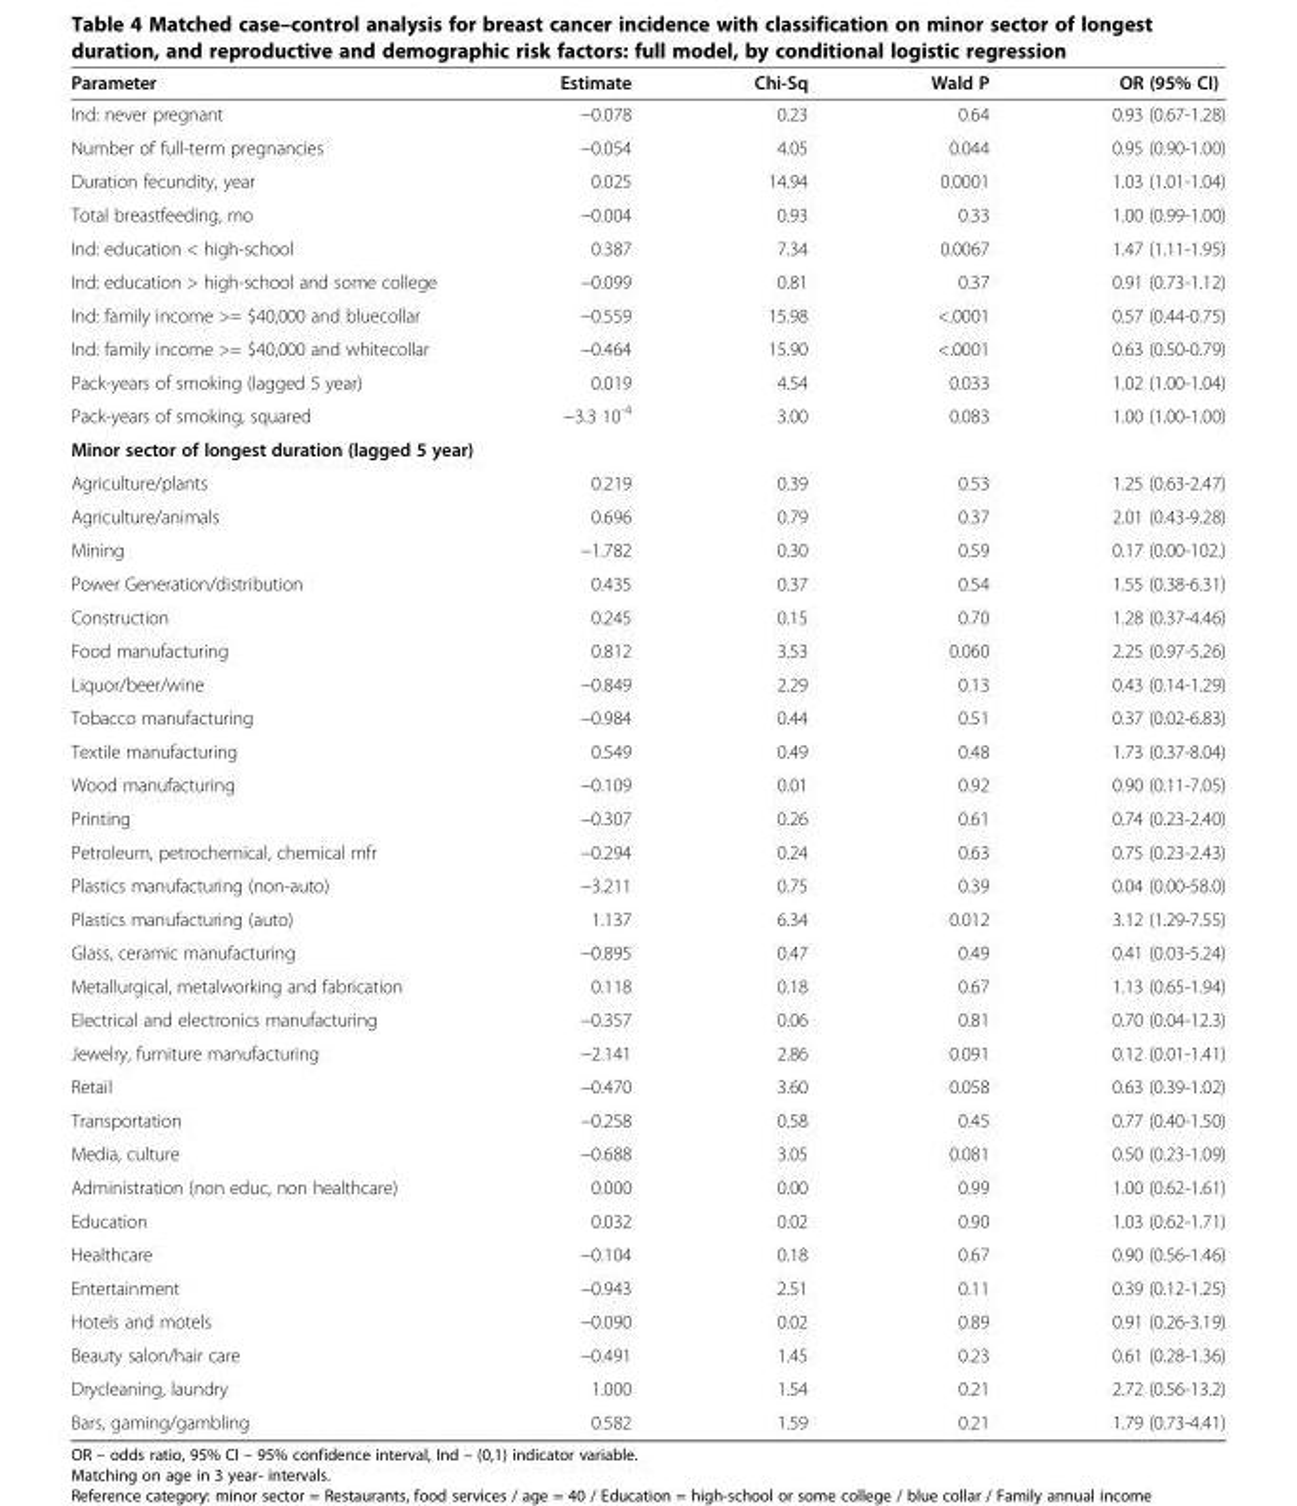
<table><thead><tr><td>Parameter</td><td>Estimate</td><td>Chi-Sq</td><td>Wald P</td><td>OR (95% CI)</td></tr></thead><tbody><tr><td>Ind: never pregnant</td><td>−0.078</td><td>0.23</td><td>0.64</td><td>0.93 (0.67-1.28)</td></tr><tr><td>Number of full-term pregnancies</td><td>−0.054</td><td>4.05</td><td>0.044</td><td>0.95 (0.90-1.00)</td></tr><tr><td>Duration fecundity, year</td><td>0.025</td><td>14.94</td><td>0.0001</td><td>1.03 (1.01-1.04)</td></tr><tr><td>Total breastfeeding, mo</td><td>−0.004</td><td>0.93</td><td>0.33</td><td>1.00 (0.99-1.00)</td></tr><tr><td>Ind: education &lt; high-school</td><td>0.387</td><td>7.34</td><td>0.0067</td><td>1.47 (1.11-1.95)</td></tr><tr><td>Ind: education &gt; high-school and some college</td><td>−0.099</td><td>0.81</td><td>0.37</td><td>0.91 (0.73-1.12)</td></tr><tr><td>Ind: family income &gt;= $40,000 and bluecollar</td><td>−0.559</td><td>15.98</td><td>&lt;.0001</td><td>0.57 (0.44-0.75)</td></tr><tr><td>Ind: family income &gt;= $40,000 and whitecollar</td><td>−0.464</td><td>15.90</td><td>&lt;.0001</td><td>0.63 (0.50-0.79)</td></tr><tr><td>Pack-years of smoking (lagged 5 year)</td><td>0.019</td><td>4.54</td><td>0.033</td><td>1.02 (1.00-1.04)</td></tr><tr><td>Pack-years of smoking, squared</td><td>−3.3 10<sup>-4</sup></td><td>3.00</td><td>0.083</td><td>1.00 (1.00-1.00)</td></tr><tr><td colspan="5">Minor sector of longest duration (lagged 5 year)</td></tr><tr><td>Agriculture/plants</td><td>0.219</td><td>0.39</td><td>0.53</td><td>1.25 (0.63-2.47)</td></tr><tr><td>Agriculture/animals</td><td>0.696</td><td>0.79</td><td>0.37</td><td>2.01 (0.43-9.28)</td></tr><tr><td>Mining</td><td>−1.782</td><td>0.30</td><td>0.59</td><td>0.17 (0.00-102.)</td></tr><tr><td>Power Generation/distribution</td><td>0.435</td><td>0.37</td><td>0.54</td><td>1.55 (0.38-6.31)</td></tr><tr><td>Construction</td><td>0.245</td><td>0.15</td><td>0.70</td><td>1.28 (0.37-4.46)</td></tr><tr><td>Food manufacturing</td><td>0.812</td><td>3.53</td><td>0.060</td><td>2.25 (0.97-5.26)</td></tr><tr><td>Liquor/beer/wine</td><td>−0.849</td><td>2.29</td><td>0.13</td><td>0.43 (0.14-1.29)</td></tr><tr><td>Tobacco manufacturing</td><td>−0.984</td><td>0.44</td><td>0.51</td><td>0.37 (0.02-6.83)</td></tr><tr><td>Textile manufacturing</td><td>0.549</td><td>0.49</td><td>0.48</td><td>1.73 (0.37-8.04)</td></tr><tr><td>Wood manufacturing</td><td>−0.109</td><td>0.01</td><td>0.92</td><td>0.90 (0.11-7.05)</td></tr><tr><td>Printing</td><td>−0.307</td><td>0.26</td><td>0.61</td><td>0.74 (0.23-2.40)</td></tr><tr><td>Petroleum, petrochemical, chemical mfr</td><td>−0.294</td><td>0.24</td><td>0.63</td><td>0.75 (0.23-2.43)</td></tr><tr><td>Plastics manufacturing (non-auto)</td><td>−3.211</td><td>0.75</td><td>0.39</td><td>0.04 (0.00-58.0)</td></tr><tr><td>Plastics manufacturing (auto)</td><td>1.137</td><td>6.34</td><td>0.012</td><td>3.12 (1.29-7.55)</td></tr><tr><td>Glass, ceramic manufacturing</td><td>−0.895</td><td>0.47</td><td>0.49</td><td>0.41 (0.03-5.24)</td></tr><tr><td>Metallurgical, metalworking and fabrication</td><td>0.118</td><td>0.18</td><td>0.67</td><td>1.13 (0.65-1.94)</td></tr><tr><td>Electrical and electronics manufacturing</td><td>−0.357</td><td>0.06</td><td>0.81</td><td>0.70 (0.04-12.3)</td></tr><tr><td>Jewelry, furniture manufacturing</td><td>−2.141</td><td>2.86</td><td>0.091</td><td>0.12 (0.01-1.41)</td></tr><tr><td>Retail</td><td>−0.470</td><td>3.60</td><td>0.058</td><td>0.63 (0.39-1.02)</td></tr><tr><td>Transportation</td><td>−0.258</td><td>0.58</td><td>0.45</td><td>0.77 (0.40-1.50)</td></tr><tr><td>Media, culture</td><td>−0.688</td><td>3.05</td><td>0.081</td><td>0.50 (0.23-1.09)</td></tr><tr><td>Administration (non educ, non healthcare)</td><td>0.000</td><td>0.00</td><td>0.99</td><td>1.00 (0.62-1.61)</td></tr><tr><td>Education</td><td>0.032</td><td>0.02</td><td>0.90</td><td>1.03 (0.62-1.71)</td></tr><tr><td>Healthcare</td><td>−0.104</td><td>0.18</td><td>0.67</td><td>0.90 (0.56-1.46)</td></tr><tr><td>Entertainment</td><td>−0.943</td><td>2.51</td><td>0.11</td><td>0.39 (0.12-1.25)</td></tr><tr><td>Hotels and motels</td><td>−0.090</td><td>0.02</td><td>0.89</td><td>0.91 (0.26-3.19)</td></tr><tr><td>Beauty salon/hair care</td><td>−0.491</td><td>1.45</td><td>0.23</td><td>0.61 (0.28-1.36)</td></tr><tr><td>Drycleaning, laundry</td><td>1.000</td><td>1.54</td><td>0.21</td><td>2.72 (0.56-13.2)</td></tr><tr><td>Bars, gaming/gambling</td><td>0.582</td><td>1.59</td><td>0.21</td><td>1.79 (0.73-4.41)</td></tr></tbody></table>